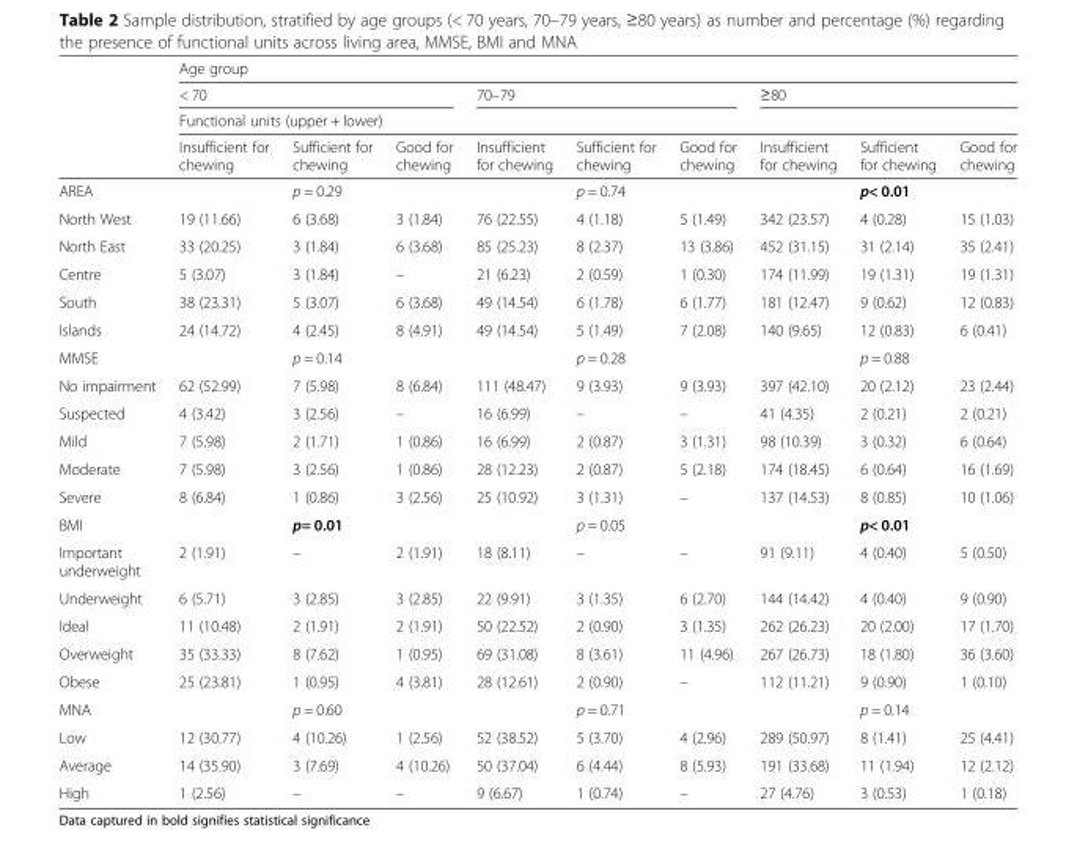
<table><thead><tr><td rowspan="4"></td><td colspan="9">Age group</td></tr><tr><td colspan="3">&lt; 70</td><td colspan="3">70–79</td><td colspan="3">≥80</td></tr><tr><td colspan="9">Functional units (upper + lower)</td></tr><tr><td>Insufficient for chewing</td><td>Sufficient for chewing</td><td>Good for chewing</td><td>Insufficient for chewing</td><td>Sufficient for chewing</td><td>Good for chewing</td><td>Insufficient for chewing</td><td>Sufficient for chewing</td><td>Good for chewing</td></tr></thead><tbody><tr><td>AREA</td><td></td><td>p = 0.29</td><td></td><td></td><td>p = 0.74</td><td></td><td></td><td>p&lt; 0.01</td><td></td></tr><tr><td>North West</td><td>19 (11.66)</td><td>6 (3.68)</td><td>3 (1.84)</td><td>76 (22.55)</td><td>4 (1.18)</td><td>5 (1.49)</td><td>342 (23.57)</td><td>4 (0.28)</td><td>15 (1.03)</td></tr><tr><td>North East</td><td>33 (20.25)</td><td>3 (1.84)</td><td>6 (3.68)</td><td>85 (25.23)</td><td>8 (2.37)</td><td>13 (3.86)</td><td>452 (31.15)</td><td>31 (2.14)</td><td>35 (2.41)</td></tr><tr><td>Centre</td><td>5 (3.07)</td><td>3 (1.84)</td><td>–</td><td>21 (6.23)</td><td>2 (0.59)</td><td>1 (0.30)</td><td>174 (11.99)</td><td>19 (1.31)</td><td>19 (1.31)</td></tr><tr><td>South</td><td>38 (23.31)</td><td>5 (3.07)</td><td>6 (3.68)</td><td>49 (14.54)</td><td>6 (1.78)</td><td>6 (1.77)</td><td>181 (12.47)</td><td>9 (0.62)</td><td>12 (0.83)</td></tr><tr><td>Islands</td><td>24 (14.72)</td><td>4 (2.45)</td><td>8 (4.91)</td><td>49 (14.54)</td><td>5 (1.49)</td><td>7 (2.08)</td><td>140 (9.65)</td><td>12 (0.83)</td><td>6 (0.41)</td></tr><tr><td>MMSE</td><td></td><td>p = 0.14</td><td></td><td></td><td>p = 0.28</td><td></td><td></td><td>p = 0.88</td><td></td></tr><tr><td>No impairment</td><td>62 (52.99)</td><td>7 (5.98)</td><td>8 (6.84)</td><td>111 (48.47)</td><td>9 (3.93)</td><td>9 (3.93)</td><td>397 (42.10)</td><td>20 (2.12)</td><td>23 (2.44)</td></tr><tr><td>Suspected</td><td>4 (3.42)</td><td>3 (2.56)</td><td>–</td><td>16 (6.99)</td><td>–</td><td>–</td><td>41 (4.35)</td><td>2 (0.21)</td><td>2 (0.21)</td></tr><tr><td>Mild</td><td>7 (5.98)</td><td>2 (1.71)</td><td>1 (0.86)</td><td>16 (6.99)</td><td>2 (0.87)</td><td>3 (1.31)</td><td>98 (10.39)</td><td>3 (0.32)</td><td>6 (0.64)</td></tr><tr><td>Moderate</td><td>7 (5.98)</td><td>3 (2.56)</td><td>1 (0.86)</td><td>28 (12.23)</td><td>2 (0.87)</td><td>5 (2.18)</td><td>174 (18.45)</td><td>6 (0.64)</td><td>16 (1.69)</td></tr><tr><td>Severe</td><td>8 (6.84)</td><td>1 (0.86)</td><td>3 (2.56)</td><td>25 (10.92)</td><td>3 (1.31)</td><td>–</td><td>137 (14.53)</td><td>8 (0.85)</td><td>10 (1.06)</td></tr><tr><td>BMI</td><td></td><td>p= 0.01</td><td></td><td></td><td>p = 0.05</td><td></td><td></td><td>p&lt; 0.01</td><td></td></tr><tr><td>Important underweight</td><td>2 (1.91)</td><td>–</td><td>2 (1.91)</td><td>18 (8.11)</td><td>–</td><td>–</td><td>91 (9.11)</td><td>4 (0.40)</td><td>5 (0.50)</td></tr><tr><td>Underweight</td><td>6 (5.71)</td><td>3 (2.85)</td><td>3 (2.85)</td><td>22 (9.91)</td><td>3 (1.35)</td><td>6 (2.70)</td><td>144 (14.42)</td><td>4 (0.40)</td><td>9 (0.90)</td></tr><tr><td>Ideal</td><td>11 (10.48)</td><td>2 (1.91)</td><td>2 (1.91)</td><td>50 (22.52)</td><td>2 (0.90)</td><td>3 (1.35)</td><td>262 (26.23)</td><td>20 (2.00)</td><td>17 (1.70)</td></tr><tr><td>Overweight</td><td>35 (33.33)</td><td>8 (7.62)</td><td>1 (0.95)</td><td>69 (31.08)</td><td>8 (3.61)</td><td>11 (4.96)</td><td>267 (26.73)</td><td>18 (1.80)</td><td>36 (3.60)</td></tr><tr><td>Obese</td><td>25 (23.81)</td><td>1 (0.95)</td><td>4 (3.81)</td><td>28 (12.61)</td><td>2 (0.90)</td><td>–</td><td>112 (11.21)</td><td>9 (0.90)</td><td>1 (0.10)</td></tr><tr><td>MNA</td><td></td><td>p = 0.60</td><td></td><td></td><td>p = 0.71</td><td></td><td></td><td>p = 0.14</td><td></td></tr><tr><td>Low</td><td>12 (30.77)</td><td>4 (10.26)</td><td>1 (2.56)</td><td>52 (38.52)</td><td>5 (3.70)</td><td>4 (2.96)</td><td>289 (50.97)</td><td>8 (1.41)</td><td>25 (4.41)</td></tr><tr><td>Average</td><td>14 (35.90)</td><td>3 (7.69)</td><td>4 (10.26)</td><td>50 (37.04)</td><td>6 (4.44)</td><td>8 (5.93)</td><td>191 (33.68)</td><td>11 (1.94)</td><td>12 (2.12)</td></tr><tr><td>High</td><td>1 (2.56)</td><td>–</td><td>–</td><td>9 (6.67)</td><td>1 (0.74)</td><td>–</td><td>27 (4.76)</td><td>3 (0.53)</td><td>1 (0.18)</td></tr></tbody></table>